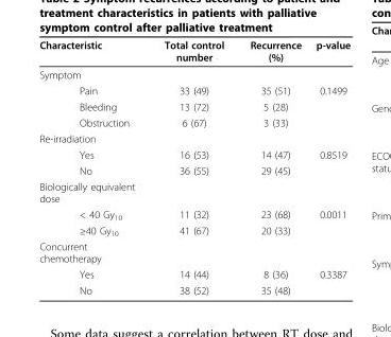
<table><thead><tr><td>Characteristic</td><td>Total control number</td><td>Recurrence (%)</td><td>p-value</td></tr></thead><tbody><tr><td colspan="4">Symptom</td></tr><tr><td>Pain</td><td>33 (49)</td><td>35 (51)</td><td>0.1499</td></tr><tr><td>Bleeding</td><td>13 (72)</td><td>5 (28)</td><td></td></tr><tr><td>Obstruction</td><td>6 (67)</td><td>3 (33)</td><td></td></tr><tr><td colspan="4">Re-irradiation</td></tr><tr><td>Yes</td><td>16 (53)</td><td>14 (47)</td><td>0.8519</td></tr><tr><td>No</td><td>36 (55)</td><td>29 (45)</td><td></td></tr><tr><td colspan="4">Biologically equivalent dose</td></tr><tr><td>&lt; 40 Gy<sub>10</sub></td><td>11 (32)</td><td>23 (68)</td><td>0.0011</td></tr><tr><td>≥40 Gy<sub>10</sub></td><td>41 (67)</td><td>20 (33)</td><td></td></tr><tr><td colspan="4">Concurrent chemotherapy</td></tr><tr><td>Yes</td><td>14 (44)</td><td>8 (36)</td><td>0.3387</td></tr><tr><td>No</td><td>38 (52)</td><td>35 (48)</td><td></td></tr></tbody></table>